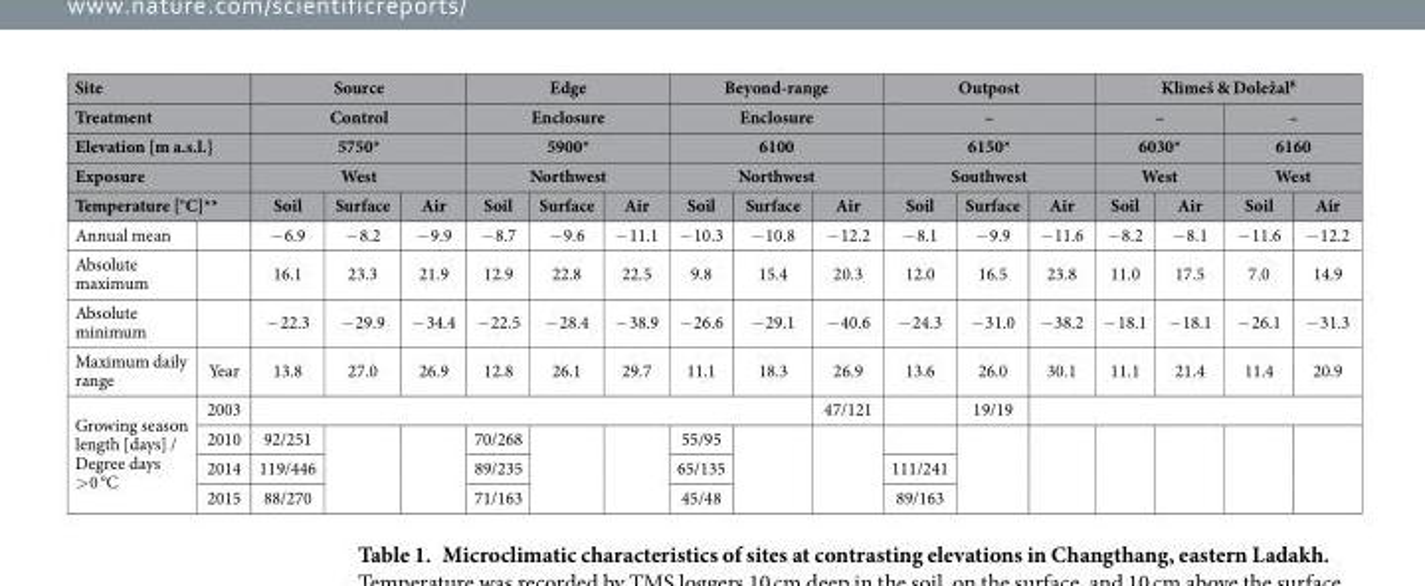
<table><thead><tr><td rowspan="5" colspan="2">Site Treatment Elevation [m a.s.l.] Exposure Temperature [°C]**</td><td rowspan="4" colspan="3">Source Control 5750* West</td><td rowspan="4" colspan="3">Edge Enclosure 5900* Northwest</td><td rowspan="4" colspan="3">Beyond-range Enclosure 6100 Northwest</td><td rowspan="4" colspan="3">Outpost – 6150* Southwest</td><td colspan="4">Klimeš &amp; Doležal<sup>8</sup></td></tr><tr><td rowspan="3" colspan="2">– 6030* West</td><td rowspan="3" colspan="2">– 6160 West</td></tr><tr></tr><tr></tr><tr><td rowspan="2">Soil − 6.9</td><td rowspan="2">Surface − 8.2</td><td rowspan="2">Air − 9.9</td><td rowspan="2">Soil − 8.7</td><td rowspan="2">Surface − 9.6</td><td rowspan="2">Air − 11.1</td><td rowspan="2">Soil − 10.3</td><td rowspan="2">Surface − 10.8</td><td rowspan="2">Air − 12.2</td><td rowspan="2">Soil − 8.1</td><td rowspan="2">Surface − 9.9</td><td rowspan="2">Air − 11.6</td><td rowspan="2">Soil − 8.2</td><td rowspan="2">Air − 8.1</td><td rowspan="2">Soil − 11.6</td><td rowspan="2">Air − 12.2</td></tr><tr><td>Annual mean</td><td></td></tr></thead><tbody><tr><td>Absolute maximum</td><td></td><td>16.1</td><td>23.3</td><td>21.9</td><td>12.9</td><td>22.8</td><td>22.5</td><td>9.8</td><td>15.4</td><td>20.3</td><td>12.0</td><td>16.5</td><td>23.8</td><td>11.0</td><td>17.5</td><td>7.0</td><td>14.9</td></tr><tr><td>Absolute minimum</td><td></td><td>− 22.3</td><td>− 29.9</td><td>− 34.4</td><td>− 22.5</td><td>− 28.4</td><td>− 38.9</td><td>− 26.6</td><td>− 29.1</td><td>− 40.6</td><td>− 24.3</td><td>− 31.0</td><td>− 38.2</td><td>− 18.1</td><td>− 18.1</td><td>− 26.1</td><td>− 31.3</td></tr><tr><td>Maximum daily range</td><td>Year</td><td>13.8</td><td>27.0</td><td>26.9</td><td>12.8</td><td>26.1</td><td>29.7</td><td>11.1</td><td>18.3</td><td>26.9</td><td>13.6</td><td>26.0</td><td>30.1</td><td>11.1</td><td>21.4</td><td>11.4</td><td>20.9</td></tr><tr><td rowspan="4">Growing season length [days] / Degree days &gt; 0 °C</td><td>2003</td><td colspan="8"></td><td>47/121</td><td></td><td>19/19</td><td colspan="5"></td></tr><tr><td>2010</td><td>92/251</td><td rowspan="3"></td><td rowspan="3"></td><td>70/268</td><td rowspan="3"></td><td rowspan="3"></td><td>55/95</td><td rowspan="3"></td><td rowspan="3"></td><td></td><td rowspan="3"></td><td rowspan="3"></td><td rowspan="3"></td><td rowspan="3"></td><td rowspan="3"></td><td rowspan="3"></td></tr><tr><td>2014</td><td>119/446</td><td>89/235</td><td>65/135</td><td>111/241</td></tr><tr><td>2015</td><td>88/270</td><td>71/163</td><td>45/48</td><td>89/163</td></tr></tbody></table>